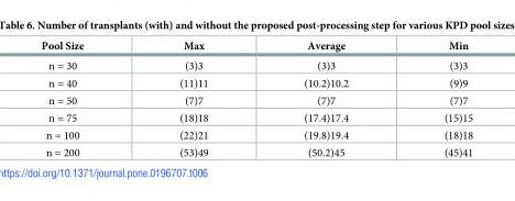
<table><thead><tr><td>Pool Size</td><td>Max</td><td>Average</td><td>Min</td></tr></thead><tbody><tr><td>n = 30</td><td>(3)3</td><td>(3)3</td><td>(3)3</td></tr><tr><td>n = 40</td><td>(11)11</td><td>(10.2)10.2</td><td>(9)9</td></tr><tr><td>n = 50</td><td>(7)7</td><td>(7)7</td><td>(7)7</td></tr><tr><td>n = 75</td><td>(18)18</td><td>(17.4)17.4</td><td>(15)15</td></tr><tr><td>n = 100</td><td>(22)21</td><td>(19.8)19.4</td><td>(18)18</td></tr><tr><td>n = 200</td><td>(53)49</td><td>(50.2)45</td><td>(45)41</td></tr></tbody></table>